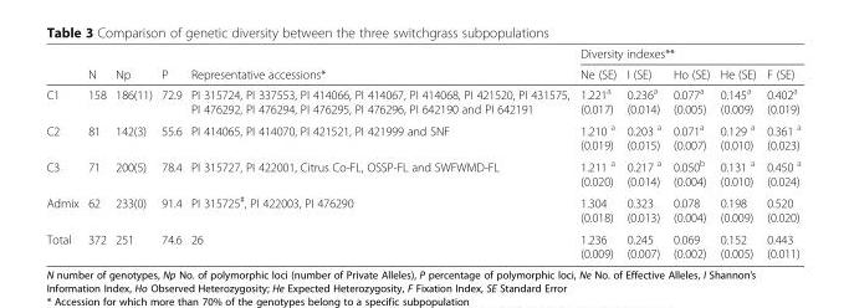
<table><thead><tr><td rowspan="2"></td><td rowspan="2">N</td><td rowspan="2">Np</td><td rowspan="2">P</td><td rowspan="2">Representative accessions*</td><td colspan="5">Diversity indexes**</td></tr><tr><td>Ne (SE)</td><td>I (SE)</td><td>Ho (SE)</td><td>He (SE)</td><td>F (SE)</td></tr></thead><tbody><tr><td>C1</td><td>158</td><td>186(11)</td><td>72.9</td><td>PI 315724, PI 337553, PI 414066, PI 414067, PI 414068, PI 421520, PI 431575, PI 476292, PI 476294, PI 476295, PI 476296, PI 642190 and PI 642191</td><td>1.221<sup>a</sup> (0.017)</td><td>0.236<sup>a</sup> (0.014)</td><td>0.077<sup>a</sup> (0.005)</td><td>0.145<sup>a</sup> (0.009)</td><td>0.402<sup>a</sup> (0.019)</td></tr><tr><td>C2</td><td>81</td><td>142(3)</td><td>55.6</td><td>PI 414065, PI 414070, PI 421521, PI 421999 and SNF</td><td>1.210 <sup>a</sup> (0.019)</td><td>0.203 <sup>a</sup> (0.015)</td><td>0.071<sup>a</sup> (0.007)</td><td>0.129 <sup>a</sup> (0.010)</td><td>0.361 <sup>a</sup> (0.023)</td></tr><tr><td>C3</td><td>71</td><td>200(5)</td><td>78.4</td><td>PI 315727, PI 422001, Citrus Co-FL, OSSP-FL and SWFWMD-FL</td><td>1.211 <sup>a</sup> (0.020)</td><td>0.217 <sup>a</sup> (0.014)</td><td>0.050<sup>b</sup> (0.004)</td><td>0.131 <sup>a</sup> (0.010)</td><td>0.450 <sup>a</sup> (0.024)</td></tr><tr><td>Admix</td><td>62</td><td>233(0)</td><td>91.4</td><td>PI 315725<sup>#</sup>, PI 422003, PI 476290</td><td>1.304 (0.018)</td><td>0.323 (0.013)</td><td>0.078 (0.004)</td><td>0.198 (0.009)</td><td>0.520 (0.020)</td></tr><tr><td>Total</td><td>372</td><td>251</td><td>74.6</td><td>26</td><td>1.236 (0.009)</td><td>0.245 (0.007)</td><td>0.069 (0.002)</td><td>0.152 (0.005)</td><td>0.443 (0.011)</td></tr></tbody></table>